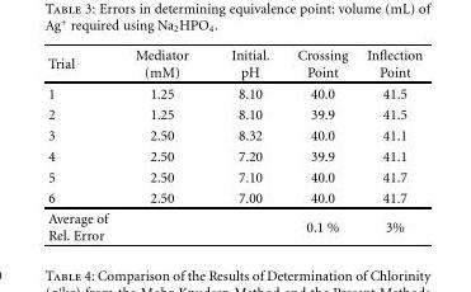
<table><thead><tr><td>Trial</td><td>Mediator (mM)</td><td>Initial. pH</td><td>Crossing Point</td><td>Inflection Point</td></tr></thead><tbody><tr><td>1</td><td>1.25</td><td>8.10</td><td>40.0</td><td>41.5</td></tr><tr><td>2</td><td>1.25</td><td>8.10</td><td>39.9</td><td>41.5</td></tr><tr><td>3</td><td>2.50</td><td>8.32</td><td>40.0</td><td>41.1</td></tr><tr><td>4</td><td>2.50</td><td>7.20</td><td>39.9</td><td>41.1</td></tr><tr><td>5</td><td>2.50</td><td>7.10</td><td>40.0</td><td>41.7</td></tr><tr><td>6</td><td>2.50</td><td>7.00</td><td>40.0</td><td>41.7</td></tr><tr><td>Average of Rel. Error</td><td></td><td></td><td>0.1 %</td><td>3%</td></tr></tbody></table>